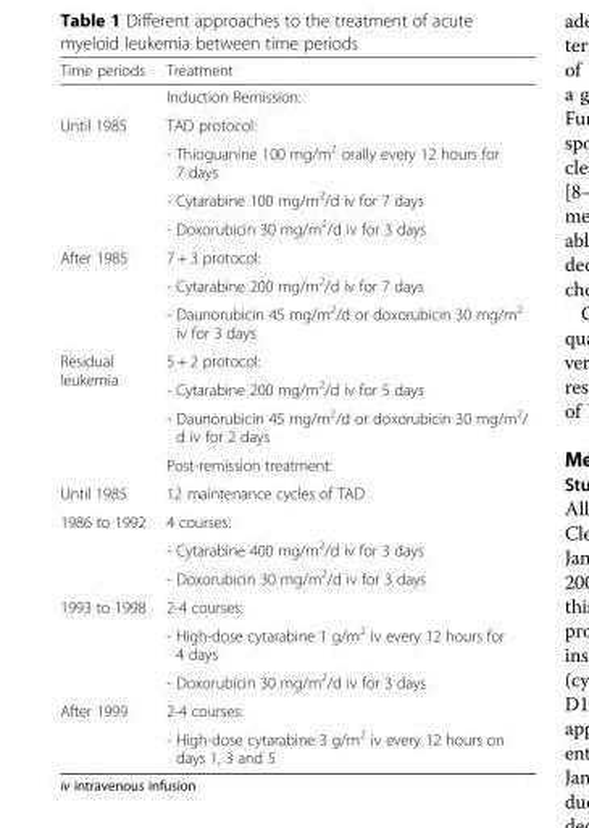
<table><thead><tr><td>Time periods</td><td>Treatment</td></tr></thead><tbody><tr><td></td><td>Induction Remission:</td></tr><tr><td rowspan="4">Until 1985</td><td>TAD protocol:</td></tr><tr><td>- Thioguanine 100 mg/m<sup>2</sup> orally every 12 hours for 7 days</td></tr><tr><td>- Cytarabine 100 mg/m<sup>2</sup>/d iv for 7 days</td></tr><tr><td>- Doxorubicin 30 mg/m<sup>2</sup>/d iv for 3 days</td></tr><tr><td rowspan="3">After 1985</td><td>7 + 3 protocol:</td></tr><tr><td>- Cytarabine 200 mg/m<sup>2</sup>/d iv for 7 days</td></tr><tr><td>- Daunorubicin 45 mg/m<sup>2</sup>/d or doxorubicin 30 mg/m<sup>2</sup> iv for 3 days</td></tr><tr><td rowspan="4">Residual leukemia</td><td>5 + 2 protocol:</td></tr><tr><td>- Cytarabine 200 mg/m<sup>2</sup>/d iv for 5 days</td></tr><tr><td>- Daunorubicin 45 mg/m<sup>2</sup>/d or doxorubicin 30 mg/m<sup>2</sup>/ d iv for 2 days</td></tr><tr><td>Post-remission treatment:</td></tr><tr><td>Until 1985</td><td>12 maintenance cycles of TAD</td></tr><tr><td rowspan="3">1986 to 1992</td><td>4 courses:</td></tr><tr><td>- Cytarabine 400 mg/m<sup>2</sup>/d iv for 3 days</td></tr><tr><td>- Doxorubicin 30 mg/m<sup>2</sup>/d iv for 3 days</td></tr><tr><td rowspan="3">1993 to 1998</td><td>2-4 courses:</td></tr><tr><td>- High-dose cytarabine 1 g/m<sup>2</sup> iv every 12 hours for 4 days</td></tr><tr><td>- Doxorubicin 30 mg/m<sup>2</sup>/d iv for 3 days</td></tr><tr><td rowspan="2">After 1999</td><td>2-4 courses:</td></tr><tr><td>- High-dose cytarabine 3 g/m<sup>2</sup> iv every 12 hours on days 1, 3 and 5</td></tr></tbody></table>